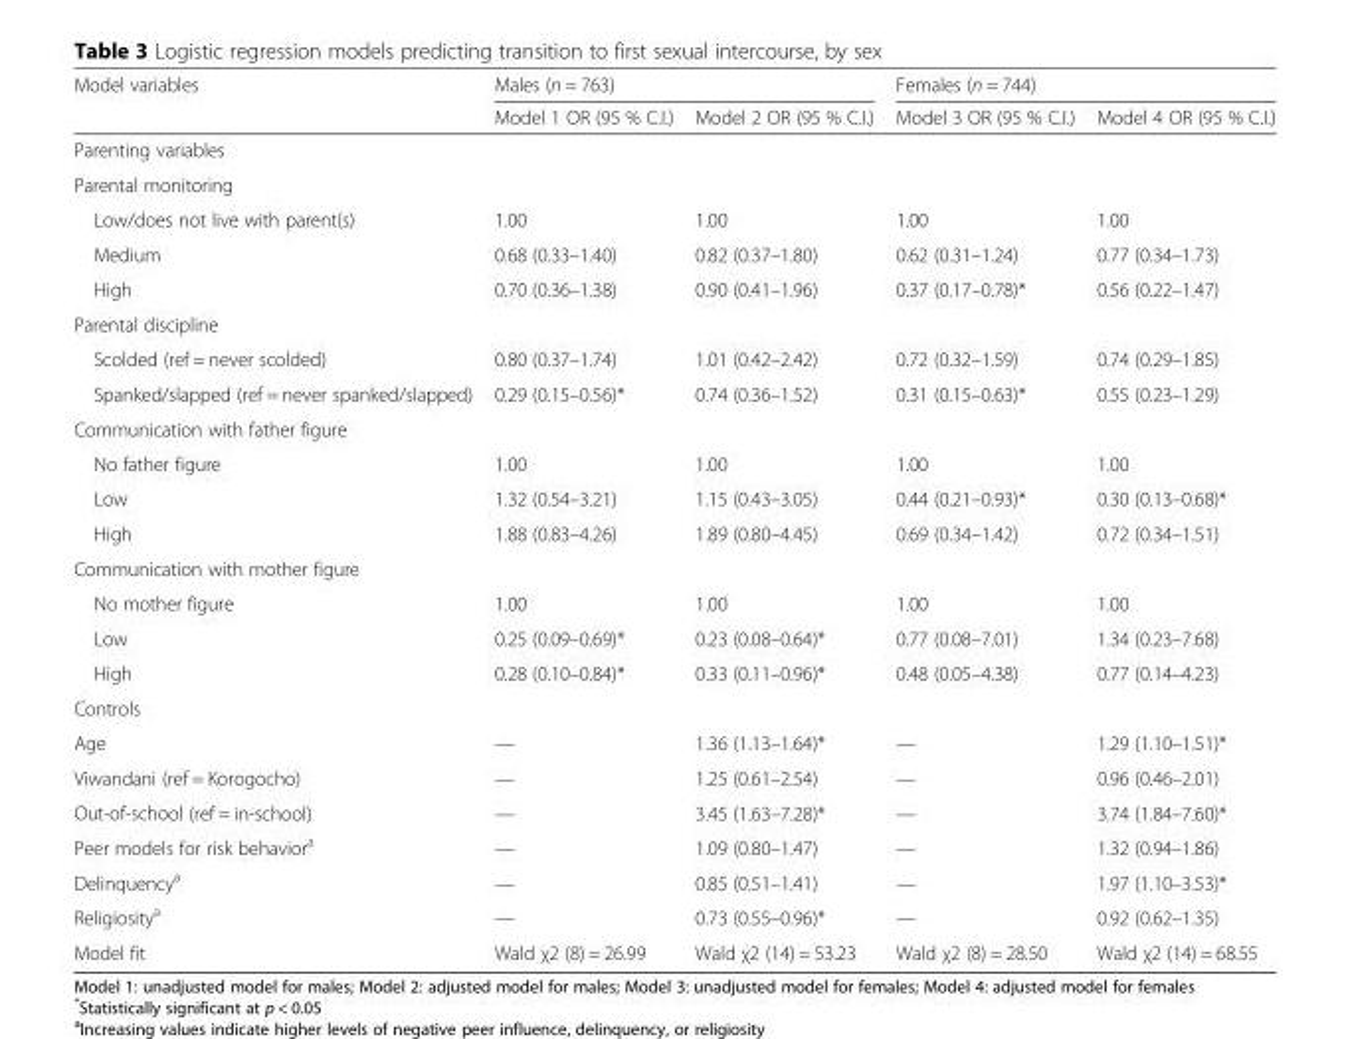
<table><thead><tr><td rowspan="2">Model variables</td><td colspan="2">Males (n = 763)</td><td colspan="2">Females (n = 744)</td></tr><tr><td>Model 1 OR (95 % C.I.)</td><td>Model 2 OR (95 % C.I.)</td><td>Model 3 OR (95 % C.I.)</td><td>Model 4 OR (95 % C.I.)</td></tr></thead><tbody><tr><td colspan="5">Parenting variables</td></tr><tr><td colspan="5">Parental monitoring</td></tr><tr><td>Low/does not live with parent(s)</td><td>1.00</td><td>1.00</td><td>1.00</td><td>1.00</td></tr><tr><td>Medium</td><td>0.68 (0.33–1.40)</td><td>0.82 (0.37–1.80)</td><td>0.62 (0.31–1.24)</td><td>0.77 (0.34–1.73)</td></tr><tr><td>High</td><td>0.70 (0.36–1.38)</td><td>0.90 (0.41–1.96)</td><td>0.37 (0.17–0.78)*</td><td>0.56 (0.22–1.47)</td></tr><tr><td colspan="5">Parental discipline</td></tr><tr><td>Scolded (ref = never scolded)</td><td>0.80 (0.37–1.74)</td><td>1.01 (0.42–2.42)</td><td>0.72 (0.32–1.59)</td><td>0.74 (0.29–1.85)</td></tr><tr><td>Spanked/slapped (ref = never spanked/slapped)</td><td>0.29 (0.15–0.56)*</td><td>0.74 (0.36–1.52)</td><td>0.31 (0.15–0.63)*</td><td>0.55 (0.23–1.29)</td></tr><tr><td colspan="5">Communication with father figure</td></tr><tr><td>No father figure</td><td>1.00</td><td>1.00</td><td>1.00</td><td>1.00</td></tr><tr><td>Low</td><td>1.32 (0.54–3.21)</td><td>1.15 (0.43–3.05)</td><td>0.44 (0.21–0.93)*</td><td>0.30 (0.13–0.68)*</td></tr><tr><td>High</td><td>1.88 (0.83–4.26)</td><td>1.89 (0.80–4.45)</td><td>0.69 (0.34–1.42)</td><td>0.72 (0.34–1.51)</td></tr><tr><td colspan="5">Communication with mother figure</td></tr><tr><td>No mother figure</td><td>1.00</td><td>1.00</td><td>1.00</td><td>1.00</td></tr><tr><td>Low</td><td>0.25 (0.09–0.69)*</td><td>0.23 (0.08–0.64)*</td><td>0.77 (0.08–7.01)</td><td>1.34 (0.23–7.68)</td></tr><tr><td>High</td><td>0.28 (0.10–0.84)*</td><td>0.33 (0.11–0.96)*</td><td>0.48 (0.05–4.38)</td><td>0.77 (0.14–4.23)</td></tr><tr><td colspan="5">Controls</td></tr><tr><td>Age</td><td>—</td><td>1.36 (1.13–1.64)*</td><td>—</td><td>1.29 (1.10–1.51)*</td></tr><tr><td>Viwandani (ref = Korogocho)</td><td>—</td><td>1.25 (0.61–2.54)</td><td>—</td><td>0.96 (0.46–2.01)</td></tr><tr><td>Out-of-school (ref = in-school)</td><td>—</td><td>3.45 (1.63–7.28)*</td><td>—</td><td>3.74 (1.84–7.60)*</td></tr><tr><td>Peer models for risk behavior<sup>a</sup></td><td>—</td><td>1.09 (0.80–1.47)</td><td>—</td><td>1.32 (0.94–1.86)</td></tr><tr><td>Delinquency<sup>a</sup></td><td>—</td><td>0.85 (0.51–1.41)</td><td>—</td><td>1.97 (1.10–3.53)*</td></tr><tr><td>Religiosity<sup>a</sup></td><td>—</td><td>0.73 (0.55–0.96)*</td><td>—</td><td>0.92 (0.62–1.35)</td></tr><tr><td>Model fit</td><td>Wald χ2 (8) = 26.99</td><td>Wald χ2 (14) = 53.23</td><td>Wald χ2 (8) = 28.50</td><td>Wald χ2 (14) = 68.55</td></tr></tbody></table>